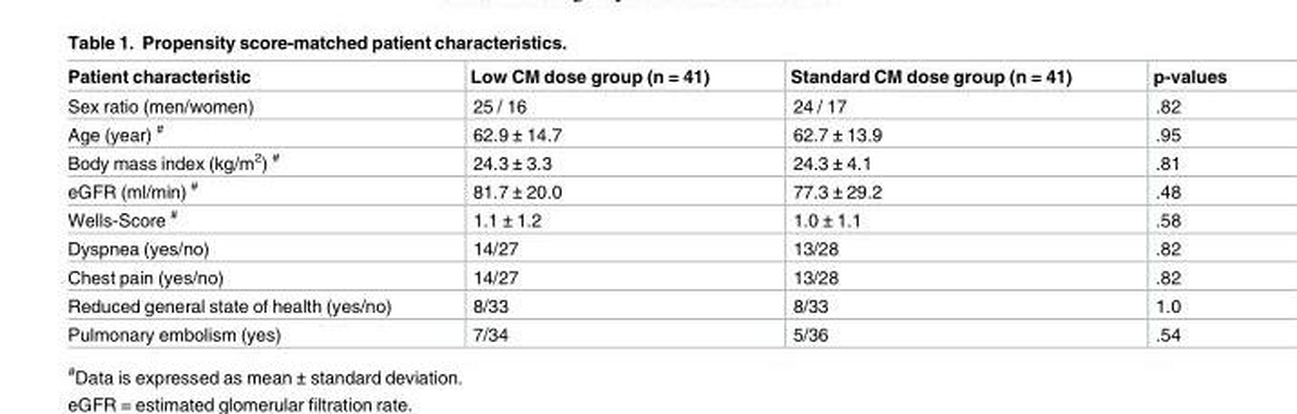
<table><thead><tr><td>Patient characteristic</td><td>Low CM dose group (n = 41)</td><td>Standard CM dose group (n = 41)</td><td>p-values</td></tr></thead><tbody><tr><td>Sex ratio (men/women)</td><td>25 / 16</td><td>24 / 17</td><td>.82</td></tr><tr><td>Age (year) <sup>#</sup></td><td>62.9 ± 14.7</td><td>62.7 ± 13.9</td><td>.95</td></tr><tr><td>Body mass index (kg/m<sup>2</sup>) <sup>#</sup></td><td>24.3 ± 3.3</td><td>24.3 ± 4.1</td><td>.81</td></tr><tr><td>eGFR (ml/min) <sup>#</sup></td><td>81.7 ± 20.0</td><td>77.3 ± 29.2</td><td>.48</td></tr><tr><td>Wells-Score <sup>#</sup></td><td>1.1 ± 1.2</td><td>1.0 ± 1.1</td><td>.58</td></tr><tr><td>Dyspnea (yes/no)</td><td>14/27</td><td>13/28</td><td>.82</td></tr><tr><td>Chest pain (yes/no)</td><td>14/27</td><td>13/28</td><td>.82</td></tr><tr><td>Reduced general state of health (yes/no)</td><td>8/33</td><td>8/33</td><td>1.0</td></tr><tr><td>Pulmonary embolism (yes)</td><td>7/34</td><td>5/36</td><td>.54</td></tr></tbody></table>